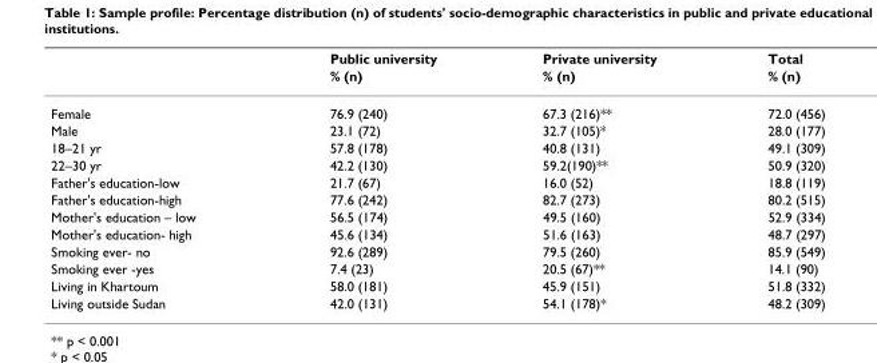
<table><thead><tr><td rowspan="2"></td><td rowspan="2">Public university % (n)</td><td rowspan="2">Private university % (n)</td><td rowspan="2">Total % (n)</td></tr><tr></tr></thead><tbody><tr><td>Female</td><td>76.9 (240)</td><td>67.3 (216)**</td><td>72.0 (456)</td></tr><tr><td>Male</td><td>23.1 (72)</td><td>32.7 (105)*</td><td>28.0 (177)</td></tr><tr><td>18–21 yr</td><td>57.8 (178)</td><td>40.8 (131)</td><td>49.1 (309)</td></tr><tr><td>22–30 yr</td><td>42.2 (130)</td><td>59.2(190)**</td><td>50.9 (320)</td></tr><tr><td>Father&#x27;s education-low</td><td>21.7 (67)</td><td>16.0 (52)</td><td>18.8 (119)</td></tr><tr><td>Father&#x27;s education-high</td><td>77.6 (242)</td><td>82.7 (273)</td><td>80.2 (515)</td></tr><tr><td>Mother&#x27;s education – low</td><td>56.5 (174)</td><td>49.5 (160)</td><td>52.9 (334)</td></tr><tr><td>Mother&#x27;s education- high</td><td>45.6 (134)</td><td>51.6 (163)</td><td>48.7 (297)</td></tr><tr><td>Smoking ever- no</td><td>92.6 (289)</td><td>79.5 (260)</td><td>85.9 (549)</td></tr><tr><td>Smoking ever -yes</td><td>7.4 (23)</td><td>20.5 (67)**</td><td>14.1 (90)</td></tr><tr><td>Living in Khartoum</td><td>58.0 (181)</td><td>45.9 (151)</td><td>51.8 (332)</td></tr><tr><td>Living outside Sudan</td><td>42.0 (131)</td><td>54.1 (178)*</td><td>48.2 (309)</td></tr></tbody></table>